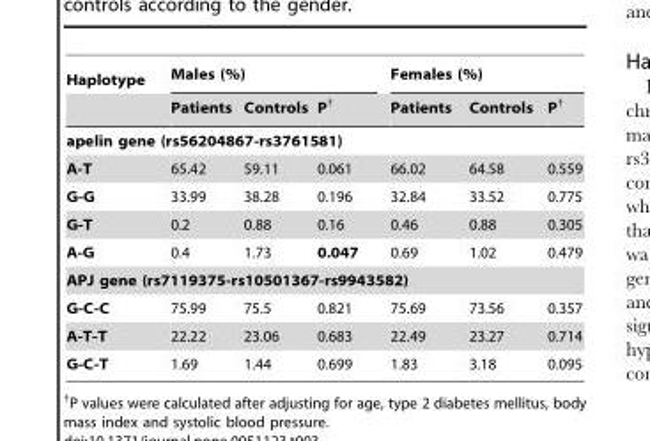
<table><thead><tr><td rowspan="2">Haplotype</td><td colspan="3">Males (%)</td><td colspan="3">Females (%)</td></tr><tr><td>Patients</td><td>Controls</td><td>P†</td><td>Patients</td><td>Controls</td><td>P†</td></tr></thead><tbody><tr><td colspan="7">apelin gene (rs56204867-rs3761581)</td></tr><tr><td>A-T</td><td>65.42</td><td>59.11</td><td>0.061</td><td>66.02</td><td>64.58</td><td>0.559</td></tr><tr><td>G-G</td><td>33.99</td><td>38.28</td><td>0.196</td><td>32.84</td><td>33.52</td><td>0.775</td></tr><tr><td>G-T</td><td>0.2</td><td>0.88</td><td>0.16</td><td>0.46</td><td>0.88</td><td>0.305</td></tr><tr><td>A-G</td><td>0.4</td><td>1.73</td><td>0.047</td><td>0.69</td><td>1.02</td><td>0.479</td></tr><tr><td colspan="7">APJ gene (rs7119375-rs10501367-rs9943582)</td></tr><tr><td>G-C-C</td><td>75.99</td><td>75.5</td><td>0.821</td><td>75.69</td><td>73.56</td><td>0.357</td></tr><tr><td>A-T-T</td><td>22.22</td><td>23.06</td><td>0.683</td><td>22.49</td><td>23.27</td><td>0.714</td></tr><tr><td>G-C-T</td><td>1.69</td><td>1.44</td><td>0.699</td><td>1.83</td><td>3.18</td><td>0.095</td></tr></tbody></table>